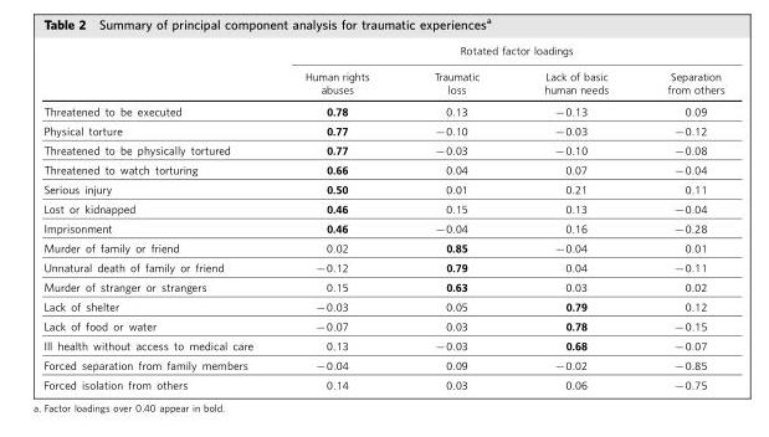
<table><thead><tr><td rowspan="2"></td><td colspan="4">Rotated factor loadings</td></tr><tr><td>Human rights abuses</td><td>Traumatic loss</td><td>Lack of basic human needs</td><td>Separation from others</td></tr></thead><tbody><tr><td>Threatened to be executed</td><td>0.78</td><td>0.13</td><td>−0.13</td><td>0.09</td></tr><tr><td>Physical torture</td><td>0.77</td><td>−0.10</td><td>−0.03</td><td>−0.12</td></tr><tr><td>Threatened to be physically tortured</td><td>0.77</td><td>−0.03</td><td>−0.10</td><td>−0.08</td></tr><tr><td>Threatened to watch torturing</td><td>0.66</td><td>0.04</td><td>0.07</td><td>−0.04</td></tr><tr><td>Serious injury</td><td>0.50</td><td>0.01</td><td>0.21</td><td>0.11</td></tr><tr><td>Lost or kidnapped</td><td>0.46</td><td>0.15</td><td>0.13</td><td>−0.04</td></tr><tr><td>Imprisonment</td><td>0.46</td><td>−0.04</td><td>0.16</td><td>−0.28</td></tr><tr><td>Murder of family or friend</td><td>0.02</td><td>0.85</td><td>−0.04</td><td>0.01</td></tr><tr><td>Unnatural death of family or friend</td><td>−0.12</td><td>0.79</td><td>0.04</td><td>−0.11</td></tr><tr><td>Murder of stranger or strangers</td><td>0.15</td><td>0.63</td><td>0.03</td><td>0.02</td></tr><tr><td>Lack of shelter</td><td>−0.03</td><td>0.05</td><td>0.79</td><td>0.12</td></tr><tr><td>Lack of food or water</td><td>−0.07</td><td>0.03</td><td>0.78</td><td>−0.15</td></tr><tr><td>Ill health without access to medical care</td><td>0.13</td><td>−0.03</td><td>0.68</td><td>−0.07</td></tr><tr><td>Forced separation from family members</td><td>−0.04</td><td>0.09</td><td>−0.02</td><td>−0.85</td></tr><tr><td>Forced isolation from others</td><td>0.14</td><td>0.03</td><td>0.06</td><td>−0.75</td></tr></tbody></table>